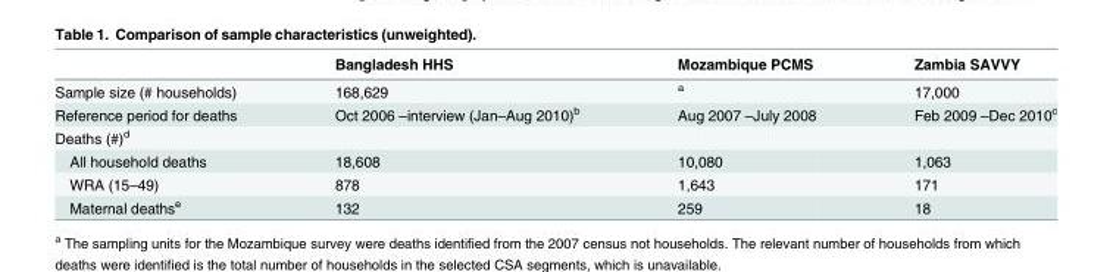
<table><thead><tr><td></td><td>Bangladesh HHS</td><td>Mozambique PCMS</td><td>Zambia SAVVY</td></tr></thead><tbody><tr><td>Sample size (# households)</td><td>168,629</td><td><sup>a</sup></td><td>17,000</td></tr><tr><td>Reference period for deaths</td><td>Oct 2006 –interview (Jan–Aug 2010)<sup>b</sup></td><td>Aug 2007 –July 2008</td><td>Feb 2009 –Dec 2010<sup>c</sup></td></tr><tr><td colspan="4">Deaths (#)<sup>d</sup></td></tr><tr><td>All household deaths</td><td>18,608</td><td>10,080</td><td>1,063</td></tr><tr><td>WRA (15–49)</td><td>878</td><td>1,643</td><td>171</td></tr><tr><td>Maternal deaths<sup>e</sup></td><td>132</td><td>259</td><td>18</td></tr></tbody></table>